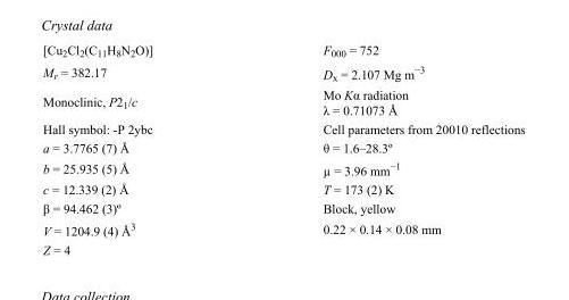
<table><tbody><tr><td>[Cu<sub>2</sub>Cl<sub>2</sub>(C<sub>11</sub>H<sub>8</sub>N<sub>2</sub>O)]</td><td>F<sub>000</sub> = 752</td></tr><tr><td>M<sub>r</sub> = 382.17</td><td>D<sub>x</sub> = 2.107 Mg m<sup>−3</sup></td></tr><tr><td>Monoclinic, P2<sub>1</sub>/c</td><td>Mo Kα radiation λ = 0.71073 Å</td></tr><tr><td>Hall symbol: -P 2ybc</td><td>Cell parameters from 20010 reflections</td></tr><tr><td>a = 3.7765 (7) Å</td><td>θ = 1.6–28.3º</td></tr><tr><td>b = 25.935 (5) Å</td><td>µ = 3.96 mm<sup>−1</sup></td></tr><tr><td>c = 12.339 (2) Å</td><td>T = 173 (2) K</td></tr><tr><td>β = 94.462 (3)º</td><td>Block, yellow</td></tr><tr><td>V = 1204.9 (4) Å<sup>3</sup></td><td>0.22 × 0.14 × 0.08 mm</td></tr><tr><td>Z = 4</td><td></td></tr></tbody></table>